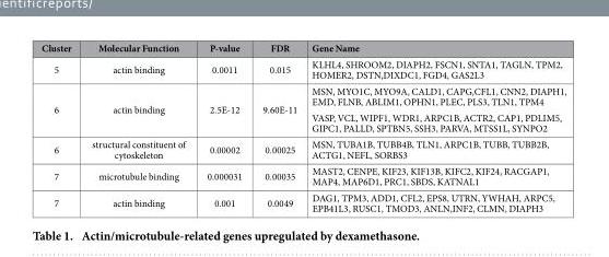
<table><thead><tr><td>Cluster</td><td>Molecular Function</td><td>P-value</td><td>FDR</td><td>Gene Name</td></tr></thead><tbody><tr><td>5</td><td>actin binding</td><td>0.0011</td><td>0.015</td><td>KLHL4, SHROOM2, DIAPH2, FSCN1, SNTA1, TAGLN, TPM2, HOMER2, DSTN,DIXDC1, FGD4, GAS2L3</td></tr><tr><td rowspan="2">6</td><td rowspan="2">actin binding</td><td rowspan="2">2.5E-12</td><td rowspan="2">9.60E-11</td><td>MSN, MYO1C, MYO9A, CALD1, CAPG,CFL1, CNN2, DIAPH1, EMD, FLNB, ABLIM1, OPHN1, PLEC, PLS3, TLN1, TPM4</td></tr><tr><td>VASP, VCL, WIPF1, WDR1, ARPC1B, ACTR2, CAP1, PDLIM5, GIPC1, PALLD, SPTBN5, SSH3, PARVA, MTSS1L, SYNPO2</td></tr><tr><td>6</td><td>structural constituent of cytoskeleton</td><td>0.00002</td><td>0.00025</td><td>MSN, TUBA1B, TUBB4B, TLN1, ARPC1B, TUBB, TUBB2B, ACTG1, NEFL, SORBS3</td></tr><tr><td>7</td><td>microtubule binding</td><td>0.000031</td><td>0.00035</td><td>MAST2, CENPE, KIF23, KIF13B, KIFC2, KIF24, RACGAP1, MAP4, MAP6D1, PRC1, SBDS, KATNAL1</td></tr><tr><td>7</td><td>actin binding</td><td>0.001</td><td>0.0049</td><td>DAG1, TPM3, ADD1, CFL2, EPS8, UTRN, YWHAH, ARPC5, EPB41L3, RUSC1, TMOD3, ANLN,INF2, CLMN, DIAPH3</td></tr></tbody></table>